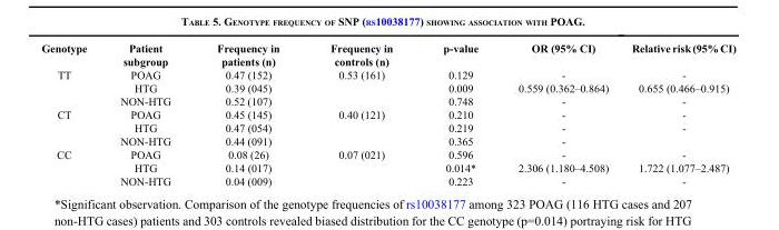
<table><thead><tr><td>Genotype</td><td>Patient subgroup</td><td>Frequency in patients (n)</td><td>Frequency in controls (n)</td><td>p-value</td><td>OR (95% CI)</td><td>Relative risk (95% CI)</td></tr></thead><tbody><tr><td rowspan="3">TT</td><td>POAG</td><td>0.47 (152)</td><td>0.53 (161)</td><td>0.129</td><td>-</td><td>-</td></tr><tr><td>HTG</td><td>0.39 (045)</td><td></td><td>0.009</td><td>0.559 (0.362–0.864)</td><td>0.655 (0.466–0.915)</td></tr><tr><td>NON-HTG</td><td>0.52 (107)</td><td></td><td>0.748</td><td>-</td><td>-</td></tr><tr><td rowspan="3">CT</td><td>POAG</td><td>0.45 (145)</td><td>0.40 (121)</td><td>0.210</td><td>-</td><td>-</td></tr><tr><td>HTG</td><td>0.47 (054)</td><td></td><td>0.219</td><td>-</td><td>-</td></tr><tr><td>NON-HTG</td><td>0.44 (091)</td><td></td><td>0.365</td><td>-</td><td></td></tr><tr><td rowspan="3">CC</td><td>POAG</td><td>0.08 (26)</td><td>0.07 (021)</td><td>0.596</td><td>-</td><td>-</td></tr><tr><td>HTG</td><td>0.14 (017)</td><td></td><td>0.014*</td><td>2.306 (1.180–4.508)</td><td>1.722 (1.077–2.487)</td></tr><tr><td>NON-HTG</td><td>0.04 (009)</td><td></td><td>0.223</td><td>-</td><td>-</td></tr></tbody></table>